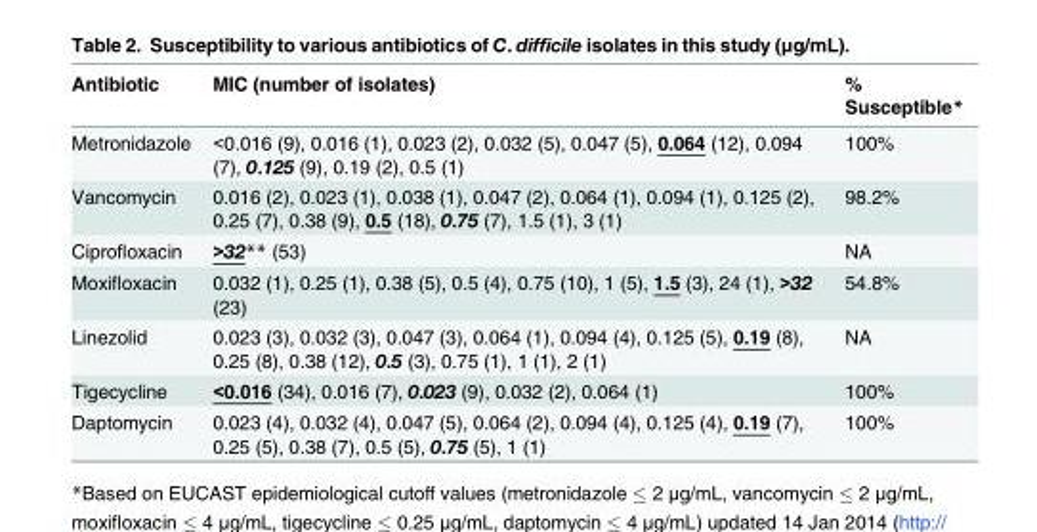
<table><thead><tr><td>Antibiotic</td><td>MIC (number of isolates)</td><td>% Susceptible*</td></tr></thead><tbody><tr><td>Metronidazole</td><td>&lt;0.016 (9), 0.016 (1), 0.023 (2), 0.032 (5), 0.047 (5), 0.064 (12), 0.094 (7), 0.125 (9), 0.19 (2), 0.5 (1)</td><td>100%</td></tr><tr><td>Vancomycin</td><td>0.016 (2), 0.023 (1), 0.038 (1), 0.047 (2), 0.064 (1), 0.094 (1), 0.125 (2), 0.25 (7), 0.38 (9), 0.5 (18), 0.75 (7), 1.5 (1), 3 (1)</td><td>98.2%</td></tr><tr><td>Ciprofloxacin</td><td>&gt;32** (53)</td><td>NA</td></tr><tr><td>Moxifloxacin</td><td>0.032 (1), 0.25 (1), 0.38 (5), 0.5 (4), 0.75 (10), 1 (5), 1.5 (3), 24 (1), &gt;32 (23)</td><td>54.8%</td></tr><tr><td>Linezolid</td><td>0.023 (3), 0.032 (3), 0.047 (3), 0.064 (1), 0.094 (4), 0.125 (5), 0.19 (8), 0.25 (8), 0.38 (12), 0.5 (3), 0.75 (1), 1 (1), 2 (1)</td><td>NA</td></tr><tr><td>Tigecycline</td><td>&lt;0.016 (34), 0.016 (7), 0.023 (9), 0.032 (2), 0.064 (1)</td><td>100%</td></tr><tr><td>Daptomycin</td><td>0.023 (4), 0.032 (4), 0.047 (5), 0.064 (2), 0.094 (4), 0.125 (4), 0.19 (7), 0.25 (5), 0.38 (7), 0.5 (5), 0.75 (5), 1 (1)</td><td>100%</td></tr></tbody></table>